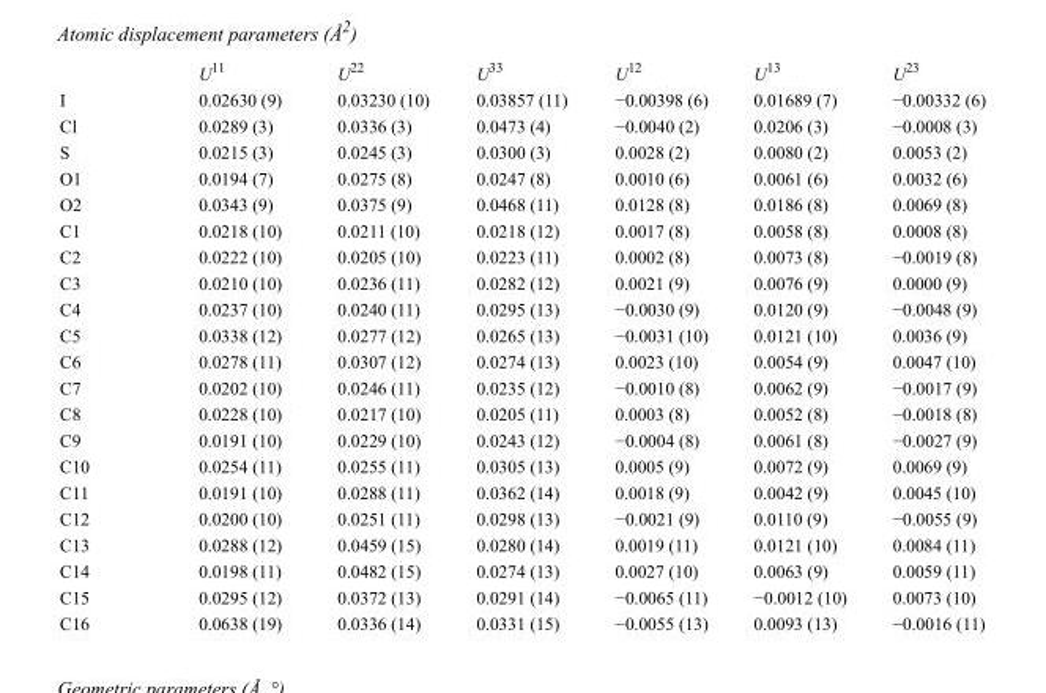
<table><thead><tr><td></td><td>U<sup>11</sup></td><td>U<sup>22</sup></td><td>U<sup>33</sup></td><td>U<sup>12</sup></td><td>U<sup>13</sup></td><td>U<sup>23</sup></td></tr></thead><tbody><tr><td>I</td><td>0.02630 (9)</td><td>0.03230 (10)</td><td>0.03857 (11)</td><td>−0.00398 (6)</td><td>0.01689 (7)</td><td>−0.00332 (6)</td></tr><tr><td>Cl</td><td>0.0289 (3)</td><td>0.0336 (3)</td><td>0.0473 (4)</td><td>−0.0040 (2)</td><td>0.0206 (3)</td><td>−0.0008 (3)</td></tr><tr><td>S</td><td>0.0215 (3)</td><td>0.0245 (3)</td><td>0.0300 (3)</td><td>0.0028 (2)</td><td>0.0080 (2)</td><td>0.0053 (2)</td></tr><tr><td>O1</td><td>0.0194 (7)</td><td>0.0275 (8)</td><td>0.0247 (8)</td><td>0.0010 (6)</td><td>0.0061 (6)</td><td>0.0032 (6)</td></tr><tr><td>O2</td><td>0.0343 (9)</td><td>0.0375 (9)</td><td>0.0468 (11)</td><td>0.0128 (8)</td><td>0.0186 (8)</td><td>0.0069 (8)</td></tr><tr><td>C1</td><td>0.0218 (10)</td><td>0.0211 (10)</td><td>0.0218 (12)</td><td>0.0017 (8)</td><td>0.0058 (8)</td><td>0.0008 (8)</td></tr><tr><td>C2</td><td>0.0222 (10)</td><td>0.0205 (10)</td><td>0.0223 (11)</td><td>0.0002 (8)</td><td>0.0073 (8)</td><td>−0.0019 (8)</td></tr><tr><td>C3</td><td>0.0210 (10)</td><td>0.0236 (11)</td><td>0.0282 (12)</td><td>0.0021 (9)</td><td>0.0076 (9)</td><td>0.0000 (9)</td></tr><tr><td>C4</td><td>0.0237 (10)</td><td>0.0240 (11)</td><td>0.0295 (13)</td><td>−0.0030 (9)</td><td>0.0120 (9)</td><td>−0.0048 (9)</td></tr><tr><td>C5</td><td>0.0338 (12)</td><td>0.0277 (12)</td><td>0.0265 (13)</td><td>−0.0031 (10)</td><td>0.0121 (10)</td><td>0.0036 (9)</td></tr><tr><td>C6</td><td>0.0278 (11)</td><td>0.0307 (12)</td><td>0.0274 (13)</td><td>0.0023 (10)</td><td>0.0054 (9)</td><td>0.0047 (10)</td></tr><tr><td>C7</td><td>0.0202 (10)</td><td>0.0246 (11)</td><td>0.0235 (12)</td><td>−0.0010 (8)</td><td>0.0062 (9)</td><td>−0.0017 (9)</td></tr><tr><td>C8</td><td>0.0228 (10)</td><td>0.0217 (10)</td><td>0.0205 (11)</td><td>0.0003 (8)</td><td>0.0052 (8)</td><td>−0.0018 (8)</td></tr><tr><td>C9</td><td>0.0191 (10)</td><td>0.0229 (10)</td><td>0.0243 (12)</td><td>−0.0004 (8)</td><td>0.0061 (8)</td><td>−0.0027 (9)</td></tr><tr><td>C10</td><td>0.0254 (11)</td><td>0.0255 (11)</td><td>0.0305 (13)</td><td>0.0005 (9)</td><td>0.0072 (9)</td><td>0.0069 (9)</td></tr><tr><td>C11</td><td>0.0191 (10)</td><td>0.0288 (11)</td><td>0.0362 (14)</td><td>0.0018 (9)</td><td>0.0042 (9)</td><td>0.0045 (10)</td></tr><tr><td>C12</td><td>0.0200 (10)</td><td>0.0251 (11)</td><td>0.0298 (13)</td><td>−0.0021 (9)</td><td>0.0110 (9)</td><td>−0.0055 (9)</td></tr><tr><td>C13</td><td>0.0288 (12)</td><td>0.0459 (15)</td><td>0.0280 (14)</td><td>0.0019 (11)</td><td>0.0121 (10)</td><td>0.0084 (11)</td></tr><tr><td>C14</td><td>0.0198 (11)</td><td>0.0482 (15)</td><td>0.0274 (13)</td><td>0.0027 (10)</td><td>0.0063 (9)</td><td>0.0059 (11)</td></tr><tr><td>C15</td><td>0.0295 (12)</td><td>0.0372 (13)</td><td>0.0291 (14)</td><td>−0.0065 (11)</td><td>−0.0012 (10)</td><td>0.0073 (10)</td></tr><tr><td>C16</td><td>0.0638 (19)</td><td>0.0336 (14)</td><td>0.0331 (15)</td><td>−0.0055 (13)</td><td>0.0093 (13)</td><td>−0.0016 (11)</td></tr></tbody></table>